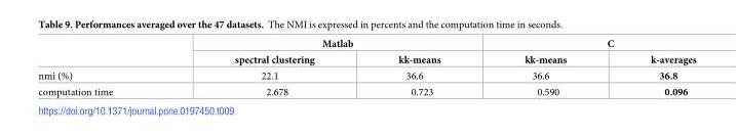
<table><thead><tr><td rowspan="2"></td><td colspan="2">Matlab</td><td colspan="2">C</td></tr><tr><td>spectral clustering</td><td>kk-means</td><td>kk-means</td><td>k-averages</td></tr></thead><tbody><tr><td>nmi (%)</td><td>22.1</td><td>36.6</td><td>36.6</td><td>36.8</td></tr><tr><td>computation time</td><td>2.678</td><td>0.723</td><td>0.590</td><td>0.096</td></tr></tbody></table>